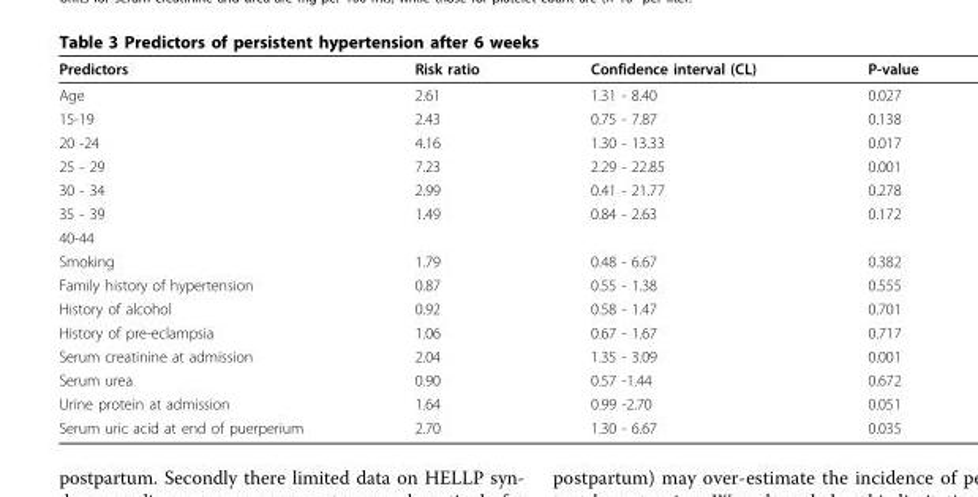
<table><thead><tr><td>Predictors</td><td>Risk ratio</td><td>Confidence interval (CL)</td><td>P-value</td></tr></thead><tbody><tr><td>Age</td><td>2.61</td><td>1.31 - 8.40</td><td>0.027</td></tr><tr><td>15-19</td><td>2.43</td><td>0.75 - 7.87</td><td>0.138</td></tr><tr><td>20 -24</td><td>4.16</td><td>1.30 - 13.33</td><td>0.017</td></tr><tr><td>25 - 29</td><td>7.23</td><td>2.29 - 22.85</td><td>0.001</td></tr><tr><td>30 - 34</td><td>2.99</td><td>0.41 - 21.77</td><td>0.278</td></tr><tr><td>35 - 39</td><td>1.49</td><td>0.84 - 2.63</td><td>0.172</td></tr><tr><td colspan="4">40-44</td></tr><tr><td>Smoking</td><td>1.79</td><td>0.48 - 6.67</td><td>0.382</td></tr><tr><td>Family history of hypertension</td><td>0.87</td><td>0.55 - 1.38</td><td>0.555</td></tr><tr><td>History of alcohol</td><td>0.92</td><td>0.58 - 1.47</td><td>0.701</td></tr><tr><td>History of pre-eclampsia</td><td>1.06</td><td>0.67 - 1.67</td><td>0.717</td></tr><tr><td>Serum creatinine at admission</td><td>2.04</td><td>1.35 - 3.09</td><td>0.001</td></tr><tr><td>Serum urea</td><td>0.90</td><td>0.57 -1.44</td><td>0.672</td></tr><tr><td>Urine protein at admission</td><td>1.64</td><td>0.99 -2.70</td><td>0.051</td></tr><tr><td>Serum uric acid at end of puerperium</td><td>2.70</td><td>1.30 - 6.67</td><td>0.035</td></tr></tbody></table>